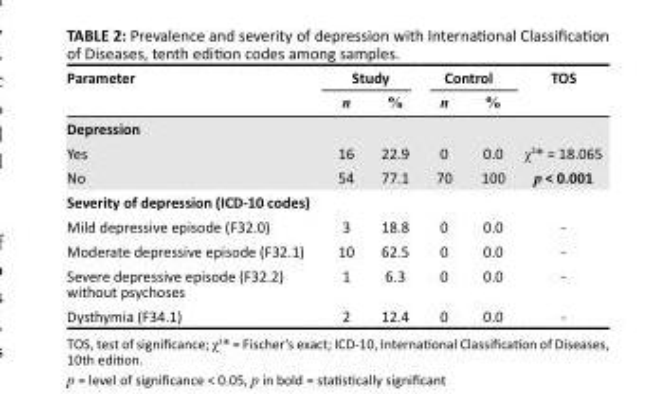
<table><thead><tr><td rowspan="2">Parameter</td><td colspan="2">Study</td><td colspan="2">Control</td><td rowspan="2">TOS</td></tr><tr><td>n</td><td>%</td><td>n</td><td>%</td></tr></thead><tbody><tr><td colspan="6">Depression</td></tr><tr><td>Yes</td><td>16</td><td>22.9</td><td>0</td><td>0.0</td><td>χ<sup>2</sup>* = 18.065</td></tr><tr><td>No</td><td>54</td><td>77.1</td><td>70</td><td>100</td><td>p &lt; 0.001</td></tr><tr><td colspan="6">Severity of depression (ICD-10 codes)</td></tr><tr><td>Mild depressive episode (F32.0)</td><td>3</td><td>18.8</td><td>0</td><td>0.0</td><td>-</td></tr><tr><td>Moderate depressive episode (F32.1)</td><td>10</td><td>62.5</td><td>0</td><td>0.0</td><td>-</td></tr><tr><td>Severe depressive episode (F32.2) without psychoses</td><td>1</td><td>6.3</td><td>0</td><td>0.0</td><td>-</td></tr><tr><td>Dysthymia (F34.1)</td><td>2</td><td>12.4</td><td>0</td><td>0.0</td><td>-</td></tr></tbody></table>